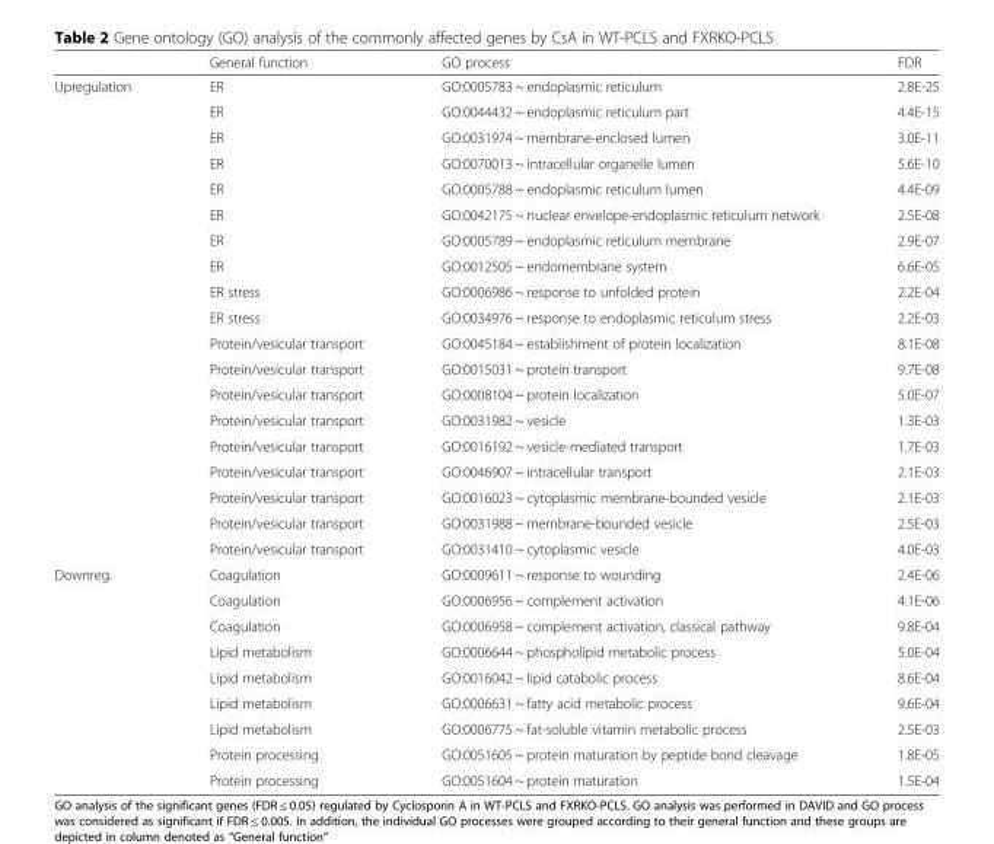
<table><thead><tr><td></td><td>General function</td><td>GO process</td><td>FDR</td></tr></thead><tbody><tr><td rowspan="19">Upregulation</td><td>ER</td><td>GO:0005783 ~ endoplasmic reticulum</td><td>2.8E-25</td></tr><tr><td>ER</td><td>GO:0044432 ~ endoplasmic reticulum part</td><td>4.4E-15</td></tr><tr><td>ER</td><td>GO:0031974 ~ membrane-enclosed lumen</td><td>3.0E-11</td></tr><tr><td>ER</td><td>GO:0070013 ~ intracellular organelle lumen</td><td>5.6E-10</td></tr><tr><td>ER</td><td>GO:0005788 ~ endoplasmic reticulum lumen</td><td>4.4E-09</td></tr><tr><td>ER</td><td>GO:0042175 ~ nuclear envelope-endoplasmic reticulum network</td><td>2.5E-08</td></tr><tr><td>ER</td><td>GO:0005789 ~ endoplasmic reticulum membrane</td><td>2.9E-07</td></tr><tr><td>ER</td><td>GO:0012505 ~ endomembrane system</td><td>6.6E-05</td></tr><tr><td>ER stress</td><td>GO:0006986 ~ response to unfolded protein</td><td>2.2E-04</td></tr><tr><td>ER stress</td><td>GO:0034976 ~ response to endoplasmic reticulum stress</td><td>2.2E-03</td></tr><tr><td>Protein/vesicular transport</td><td>GO:0045184 ~ establishment of protein localization</td><td>8.1E-08</td></tr><tr><td>Protein/vesicular transport</td><td>GO:0015031 ~ protein transport</td><td>9.7E-08</td></tr><tr><td>Protein/vesicular transport</td><td>GO:0008104 ~ protein localization</td><td>5.0E-07</td></tr><tr><td>Protein/vesicular transport</td><td>GO:0031982 ~ vesicle</td><td>1.3E-03</td></tr><tr><td>Protein/vesicular transport</td><td>GO:0016192 ~ vesicle-mediated transport</td><td>1.7E-03</td></tr><tr><td>Protein/vesicular transport</td><td>GO:0046907 ~ intracellular transport</td><td>2.1E-03</td></tr><tr><td>Protein/vesicular transport</td><td>GO:0016023 ~ cytoplasmic membrane-bounded vesicle</td><td>2.1E-03</td></tr><tr><td>Protein/vesicular transport</td><td>GO:0031988 ~ membrane-bounded vesicle</td><td>2.5E-03</td></tr><tr><td>Protein/vesicular transport</td><td>GO:0031410 ~ cytoplasmic vesicle</td><td>4.0E-03</td></tr><tr><td rowspan="9">Downreg.</td><td>Coagulation</td><td>GO:0009611 ~ response to wounding</td><td>2.4E-06</td></tr><tr><td>Coagulation</td><td>GO:0006956 ~ complement activation</td><td>4.1E-06</td></tr><tr><td>Coagulation</td><td>GO:0006958 ~ complement activation, classical pathway</td><td>9.8E-04</td></tr><tr><td>Lipid metabolism</td><td>GO:0006644 ~ phospholipid metabolic process</td><td>5.0E-04</td></tr><tr><td>Lipid metabolism</td><td>GO:0016042 ~ lipid catabolic process</td><td>8.6E-04</td></tr><tr><td>Lipid metabolism</td><td>GO:0006631 ~ fatty acid metabolic process</td><td>9.6E-04</td></tr><tr><td>Lipid metabolism</td><td>GO:0006775 ~ fat-soluble vitamin metabolic process</td><td>2.5E-03</td></tr><tr><td>Protein processing</td><td>GO:0051605 ~ protein maturation by peptide bond cleavage</td><td>1.8E-05</td></tr><tr><td>Protein processing</td><td>GO:0051604 ~ protein maturation</td><td>1.5E-04</td></tr></tbody></table>